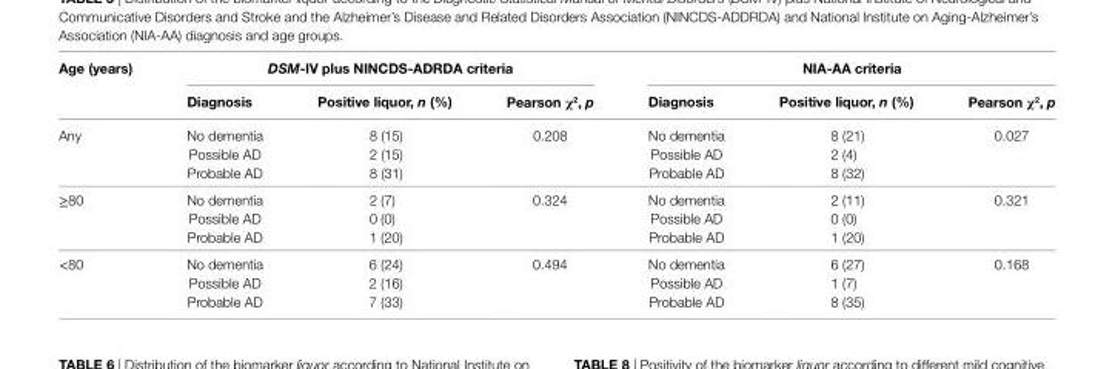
<table><thead><tr><td rowspan="2">age (years)</td><td colspan="3">DSM-iV plus nincDs-aDrDa criteria</td><td colspan="3">nia-aa criteria</td></tr><tr><td>Diagnosis</td><td>Positive liquor, n (%)</td><td>Pearson χ<sup>2</sup>, p</td><td>Diagnosis</td><td>Positive liquor, n (%)</td><td>Pearson χ<sup>2</sup>, p</td></tr></thead><tbody><tr><td rowspan="3">Any</td><td>No dementia</td><td>8 (15)</td><td>0.208</td><td>No dementia</td><td>8 (21)</td><td>0.027</td></tr><tr><td>Possible AD</td><td>2 (15)</td><td></td><td>Possible AD</td><td>2 (4)</td><td></td></tr><tr><td>Probable AD</td><td>8 (31)</td><td></td><td>Probable AD</td><td>8 (32)</td><td></td></tr><tr><td rowspan="3">≥80</td><td>No dementia</td><td>2 (7)</td><td>0.324</td><td>No dementia</td><td>2 (11)</td><td>0.321</td></tr><tr><td>Possible AD</td><td>0 (0)</td><td></td><td>Possible AD</td><td>0 (0)</td><td></td></tr><tr><td>Probable AD</td><td>1 (20)</td><td></td><td>Probable AD</td><td>1 (20)</td><td></td></tr><tr><td rowspan="3">&lt;80</td><td>No dementia</td><td>6 (24)</td><td>0.494</td><td>No dementia</td><td>6 (27)</td><td>0.168</td></tr><tr><td>Possible AD</td><td>2 (16)</td><td></td><td>Possible AD</td><td>1 (7)</td><td></td></tr><tr><td>Probable AD</td><td>7 (33)</td><td></td><td>Probable AD</td><td>8 (35)</td><td></td></tr></tbody></table>